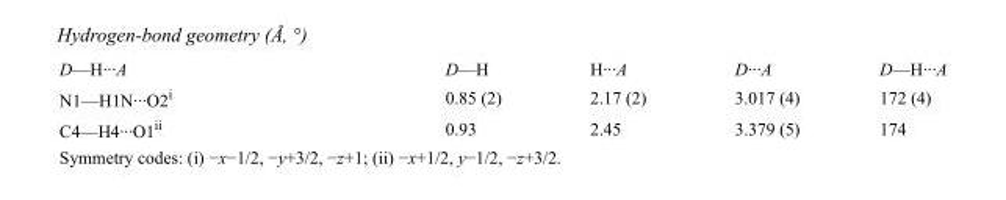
<table><tbody><tr><td>D—H···A</td><td>D—H</td><td>H···A</td><td>D···A</td><td>D—H···A</td></tr><tr><td>N1—H1N···O2<sup>i</sup></td><td>0.85 (2)</td><td>2.17 (2)</td><td>3.017 (4)</td><td>172 (4)</td></tr><tr><td>C4—H4···O1<sup>ii</sup></td><td>0.93</td><td>2.45</td><td>3.379 (5)</td><td>174</td></tr></tbody></table>